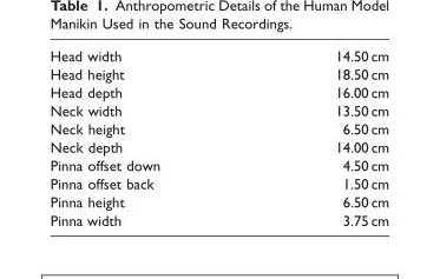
<table><tbody><tr><td>Head width</td><td>14.50 cm</td></tr><tr><td>Head height</td><td>18.50 cm</td></tr><tr><td>Head depth</td><td>16.00 cm</td></tr><tr><td>Neck width</td><td>13.50 cm</td></tr><tr><td>Neck height</td><td>6.50 cm</td></tr><tr><td>Neck depth</td><td>14.00 cm</td></tr><tr><td>Pinna offset down</td><td>4.50 cm</td></tr><tr><td>Pinna offset back</td><td>1.50 cm</td></tr><tr><td>Pinna height</td><td>6.50 cm</td></tr><tr><td>Pinna width</td><td>3.75 cm</td></tr></tbody></table>